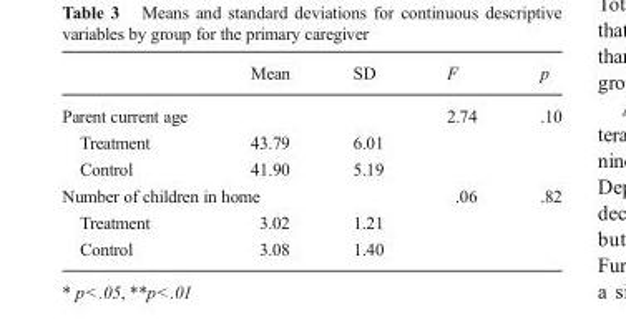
<table><thead><tr><td></td><td>Mean</td><td>SD</td><td>F</td><td>p</td></tr></thead><tbody><tr><td>Parent current age</td><td></td><td></td><td>2.74</td><td>.10</td></tr><tr><td>Treatment</td><td>43.79</td><td>6.01</td><td></td><td></td></tr><tr><td>Control</td><td>41.90</td><td>5.19</td><td></td><td></td></tr><tr><td colspan="3">Number of children in home</td><td>.06</td><td>.82</td></tr><tr><td>Treatment</td><td>3.02</td><td>1.21</td><td></td><td></td></tr><tr><td>Control</td><td>3.08</td><td>1.40</td><td></td><td></td></tr></tbody></table>